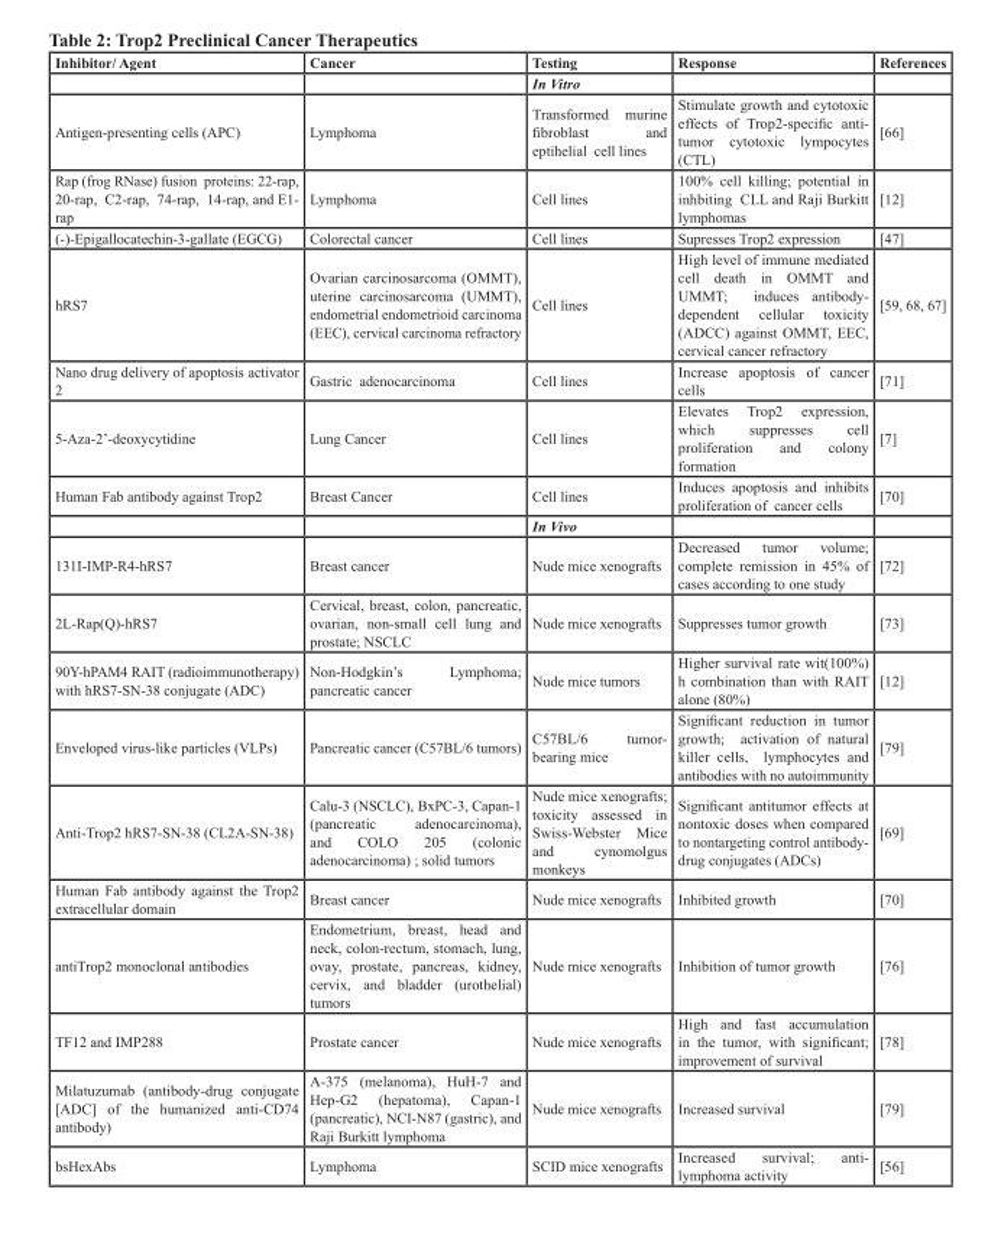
<table><thead><tr><td rowspan="2">Inhibitor/ Agent</td><td rowspan="2">Cancer</td><td rowspan="2">Testing In Vitro</td><td rowspan="2">Response</td><td rowspan="2">References</td></tr><tr></tr></thead><tbody><tr><td>Antigen-presenting cells (APC)</td><td>Lymphoma</td><td>Transformed murine fibroblast and eptihelial cell lines</td><td>Stimulate growth and cytotoxic effects of Trop2-specific anti- tumor cytotoxic lympocytes (CTL)</td><td>[66]</td></tr><tr><td>Rap (frog RNase) fusion proteins: 22-rap, 20-rap, C2-rap, 74-rap, 14-rap, and E1- rap</td><td>Lymphoma</td><td>Cell lines</td><td>100% cell killing; potential in inhbiting CLL and Raji Burkitt lymphomas</td><td>[12]</td></tr><tr><td>(-)-Epigallocatechin-3-gallate (EGCG)</td><td>Colorectal cancer</td><td>Cell lines</td><td>Supresses Trop2 expression</td><td>[47]</td></tr><tr><td>hRS7</td><td>Ovarian carcinosarcoma (OMMT), uterine carcinosarcoma (UMMT), endometrial endometrioid carcinoma (EEC), cervical carcinoma refractory</td><td>Cell lines</td><td>High level of immune mediated cell death in OMMT and UMMT; induces antibody- dependent cellular toxicity (ADCC) against OMMT, EEC, cervical cancer refractory</td><td>[59, 68, 67]</td></tr><tr><td>Nano drug delivery of apoptosis activator 2</td><td>Gastric adenocarcinoma</td><td>Cell lines</td><td>Increase apoptosis of cancer cells</td><td>[71]</td></tr><tr><td>5-Aza-2’-deoxycytidine</td><td>Lung Cancer</td><td>Cell lines</td><td>Elevates Trop2 expression, which suppresses cell proliferation and colony formation</td><td>[7]</td></tr><tr><td rowspan="2">Human Fab antibody against Trop2</td><td>Breast Cancer</td><td>Cell lines</td><td>Induces apoptosis and inhibits proliferation of cancer cells</td><td>[70]</td></tr><tr><td></td><td>In Vivo</td><td></td><td></td></tr><tr><td>131I-IMP-R4-hRS7</td><td>Breast cancer</td><td>Nude mice xenografts</td><td>Decreased tumor volume; complete remission in 45% of cases according to one study</td><td>[72]</td></tr><tr><td>2L-Rap(Q)-hRS7</td><td>Cervical, breast, colon, pancreatic, ovarian, non-small cell lung and prostate; NSCLC</td><td>Nude mice xenografts</td><td>Suppresses tumor growth</td><td>[73]</td></tr><tr><td>90Y-hPAM4 RAIT (radioimmunotherapy) with hRS7-SN-38 conjugate (ADC)</td><td>Non-Hodgkin’s Lymphoma; pancreatic cancer</td><td>Nude mice tumors</td><td>Higher survival rate wit(100%) h combination than with RAIT alone (80%)</td><td>[12]</td></tr><tr><td>Enveloped virus-like particles (VLPs)</td><td>Pancreatic cancer (C57BL/6 tumors)</td><td>C57BL/6 tumor- bearing mice</td><td>Significant reduction in tumor growth; activation of natural killer cells, lymphocytes and antibodies with no autoimmunity</td><td>[79]</td></tr><tr><td>Anti-Trop2 hRS7-SN-38 (CL2A-SN-38)</td><td>Calu-3 (NSCLC), BxPC-3, Capan-1 (pancreatic adenocarcinoma), and COLO 205 (colonic adenocarcinoma) ; solid tumors</td><td>Nude mice xenografts; toxicity assessed in Swiss-Webster Mice and cynomolgus monkeys</td><td>Significant antitumor effects at nontoxic doses when compared to nontargeting control antibody- drug conjugates (ADCs)</td><td>[69]</td></tr><tr><td>Human Fab antibody against the Trop2 extracellular domain</td><td>Breast cancer</td><td>Nude mice xenografts</td><td>Inhibited growth</td><td>[70]</td></tr><tr><td>antiTrop2 monoclonal antibodies</td><td>Endometrium, breast, head and neck, colon-rectum, stomach, lung, ovay, prostate, pancreas, kidney, cervix, and bladder (urothelial) tumors</td><td>Nude mice xenografts</td><td>Inhibition of tumor growth</td><td>[76]</td></tr><tr><td>TF12 and IMP288</td><td>Prostate cancer</td><td>Nude mice xenografts</td><td>High and fast accumulation in the tumor, with significant; improvement of survival</td><td>[78]</td></tr><tr><td>Milatuzumab (antibody-drug conjugate [ADC] of the humanized anti-CD74 antibody)</td><td>A-375 (melanoma), HuH-7 and Hep-G2 (hepatoma), Capan-1 (pancreatic), NCI-N87 (gastric), and Raji Burkitt lymphoma</td><td>Nude mice xenografts</td><td>Increased survival</td><td>[79]</td></tr><tr><td>bsHexAbs</td><td>Lymphoma</td><td>SCID mice xenografts</td><td>Increased survival; anti- lymphoma activity</td><td>[56]</td></tr></tbody></table>